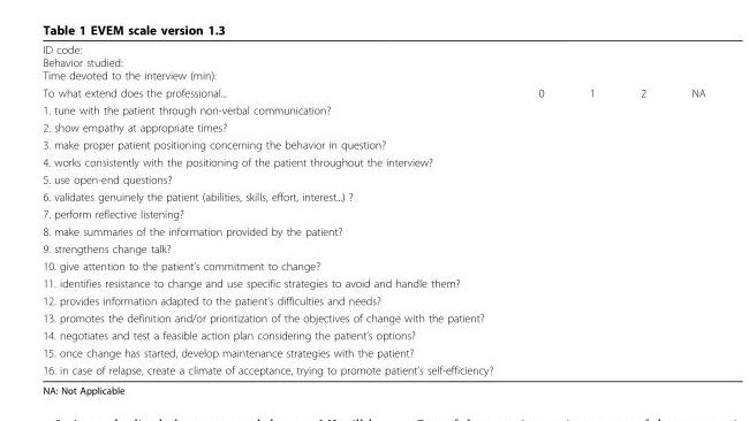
<table><tbody><tr><td colspan="5">ID code: Behavior studied: Time devoted to the interview (min):</td></tr><tr><td>To what extend does the professional...</td><td>0</td><td>1</td><td>2</td><td>NA</td></tr><tr><td colspan="5">1. tune with the patient through non-verbal communication?</td></tr><tr><td colspan="5">2. show empathy at appropriate times?</td></tr><tr><td colspan="5">3. make proper patient positioning concerning the behavior in question?</td></tr><tr><td colspan="5">4. works consistently with the positioning of the patient throughout the interview?</td></tr><tr><td colspan="5">5. use open-end questions?</td></tr><tr><td colspan="5">6. validates genuinely the patient (abilities, skills, effort, interest...) ?</td></tr><tr><td colspan="5">7. perform reflective listening?</td></tr><tr><td colspan="5">8. make summaries of the information provided by the patient?</td></tr><tr><td colspan="5">9. strengthens change talk?</td></tr><tr><td colspan="5">10. give attention to the patient’s commitment to change?</td></tr><tr><td colspan="5">11. identifies resistance to change and use specific strategies to avoid and handle them?</td></tr><tr><td colspan="5">12. provides information adapted to the patient’s difficulties and needs?</td></tr><tr><td colspan="5">13. promotes the definition and/or prioritization of the objectives of change with the patient?</td></tr><tr><td colspan="5">14. negotiates and test a feasible action plan considering the patient’s options?</td></tr><tr><td colspan="5">15. once change has started, develop maintenance strategies with the patient?</td></tr><tr><td>16. in case of relapse, create a climate of acceptance, trying to promote patient’s self-efficiency?</td><td></td><td></td><td></td><td></td></tr></tbody></table>